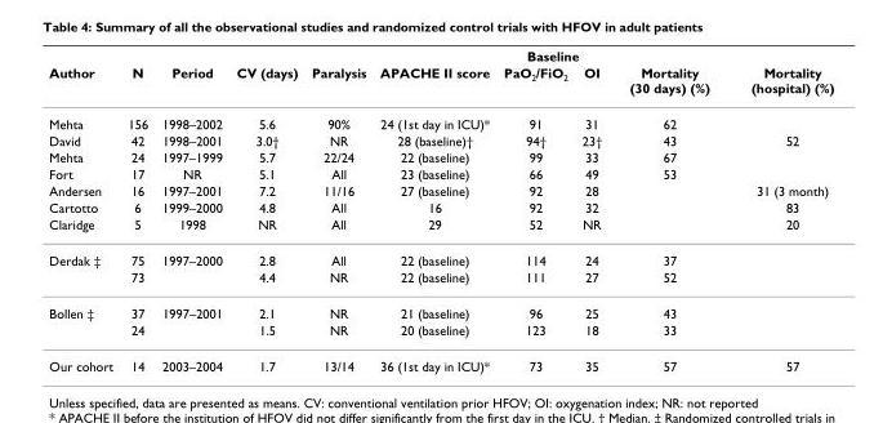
<table><thead><tr><td rowspan="2">Author</td><td rowspan="2">N</td><td rowspan="2">Period</td><td rowspan="2">CV (days)</td><td rowspan="2">Paralysis</td><td rowspan="2">APACHE II score</td><td colspan="2">Baseline</td><td rowspan="2">Mortality (30 days) (%)</td><td rowspan="2">Mortality (hospital) (%)</td></tr><tr><td>PaO<sub>2</sub>/FiO<sub>2</sub></td><td>OI</td></tr></thead><tbody><tr><td>Mehta</td><td>156</td><td>1998–2002</td><td>5.6</td><td>90%</td><td>24 (1st day in ICU)*</td><td>91</td><td>31</td><td>62</td><td></td></tr><tr><td>David</td><td>42</td><td>1998–2001</td><td>3.0†</td><td>NR</td><td>28 (baseline)†</td><td>94†</td><td>23†</td><td>43</td><td>52</td></tr><tr><td>Mehta</td><td>24</td><td>1997–1999</td><td>5.7</td><td>22/24</td><td>22 (baseline)</td><td>99</td><td>33</td><td>67</td><td></td></tr><tr><td>Fort</td><td>17</td><td>NR</td><td>5.1</td><td>All</td><td>23 (baseline)</td><td>66</td><td>49</td><td>53</td><td></td></tr><tr><td>Andersen</td><td>16</td><td>1997–2001</td><td>7.2</td><td>11/16</td><td>27 (baseline)</td><td>92</td><td>28</td><td></td><td>31 (3 month)</td></tr><tr><td>Cartotto</td><td>6</td><td>1999–2000</td><td>4.8</td><td>All</td><td>16</td><td>92</td><td>32</td><td></td><td>83</td></tr><tr><td>Claridge</td><td>5</td><td>1998</td><td>NR</td><td>All</td><td>29</td><td>52</td><td>NR</td><td></td><td>20</td></tr><tr><td rowspan="2">Derdak ‡</td><td>75</td><td>1997–2000</td><td>2.8</td><td>All</td><td>22 (baseline)</td><td>114</td><td>24</td><td>37</td><td></td></tr><tr><td>73</td><td></td><td>4.4</td><td>NR</td><td>22 (baseline)</td><td>111</td><td>27</td><td>52</td><td></td></tr><tr><td rowspan="2">Bollen ‡</td><td>37</td><td>1997–2001</td><td>2.1</td><td>NR</td><td>21 (baseline)</td><td>96</td><td>25</td><td>43</td><td></td></tr><tr><td>24</td><td></td><td>1.5</td><td>NR</td><td>20 (baseline)</td><td>123</td><td>18</td><td>33</td><td></td></tr><tr><td>Our cohort</td><td>14</td><td>2003–2004</td><td>1.7</td><td>13/14</td><td>36 (1st day in ICU)*</td><td>73</td><td>35</td><td>57</td><td>57</td></tr></tbody></table>